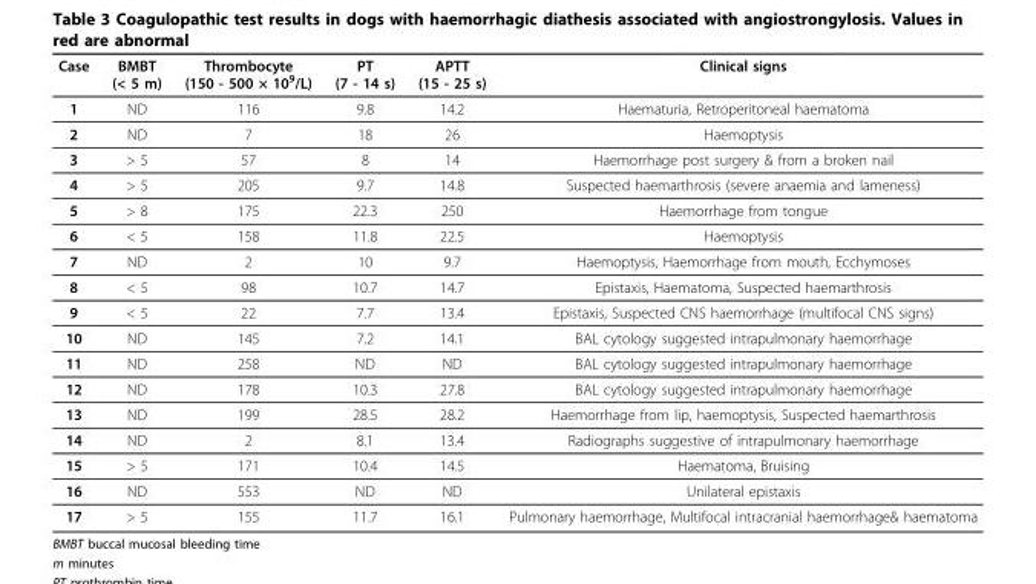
<table><thead><tr><td>Case</td><td>BMBT (&lt; 5 m)</td><td>Thrombocyte (150 - 500 × 10<sup>9</sup>/L)</td><td>PT (7 - 14 s)</td><td>APTT (15 - 25 s)</td><td>Clinical signs</td></tr></thead><tbody><tr><td>1</td><td>ND</td><td>116</td><td>9.8</td><td>14.2</td><td>Haematuria, Retroperitoneal haematoma</td></tr><tr><td>2</td><td>ND</td><td>7</td><td>18</td><td>26</td><td>Haemoptysis</td></tr><tr><td>3</td><td>&gt; 5</td><td>57</td><td>8</td><td>14</td><td>Haemorrhage post surgery &amp; from a broken nail</td></tr><tr><td>4</td><td>&gt; 5</td><td>205</td><td>9.7</td><td>14.8</td><td>Suspected haemarthrosis (severe anaemia and lameness)</td></tr><tr><td>5</td><td>&gt; 8</td><td>175</td><td>22.3</td><td>250</td><td>Haemorrhage from tongue</td></tr><tr><td>6</td><td>&lt; 5</td><td>158</td><td>11.8</td><td>22.5</td><td>Haemoptysis</td></tr><tr><td>7</td><td>ND</td><td>2</td><td>10</td><td>9.7</td><td>Haemoptysis, Haemorrhage from mouth, Ecchymoses</td></tr><tr><td>8</td><td>&lt; 5</td><td>98</td><td>10.7</td><td>14.7</td><td>Epistaxis, Haematoma, Suspected haemarthrosis</td></tr><tr><td>9</td><td>&lt; 5</td><td>22</td><td>7.7</td><td>13.4</td><td>Epistaxis, Suspected CNS haemorrhage (multifocal CNS signs)</td></tr><tr><td>10</td><td>ND</td><td>145</td><td>7.2</td><td>14.1</td><td>BAL cytology suggested intrapulmonary haemorrhage</td></tr><tr><td>11</td><td>ND</td><td>258</td><td>ND</td><td>ND</td><td>BAL cytology suggested intrapulmonary haemorrhage</td></tr><tr><td>12</td><td>ND</td><td>178</td><td>10.3</td><td>27.8</td><td>BAL cytology suggested intrapulmonary haemorrhage</td></tr><tr><td>13</td><td>ND</td><td>199</td><td>28.5</td><td>28.2</td><td>Haemorrhage from lip, haemoptysis, Suspected haemarthrosis</td></tr><tr><td>14</td><td>ND</td><td>2</td><td>8.1</td><td>13.4</td><td>Radiographs suggestive of intrapulmonary haemorrhage</td></tr><tr><td>15</td><td>&gt; 5</td><td>171</td><td>10.4</td><td>14.5</td><td>Haematoma, Bruising</td></tr><tr><td>16</td><td>ND</td><td>553</td><td>ND</td><td>ND</td><td>Unilateral epistaxis</td></tr><tr><td>17</td><td>&gt; 5</td><td>155</td><td>11.7</td><td>16.1</td><td>Pulmonary haemorrhage, Multifocal intracranial haemorrhage&amp; haematoma</td></tr></tbody></table>